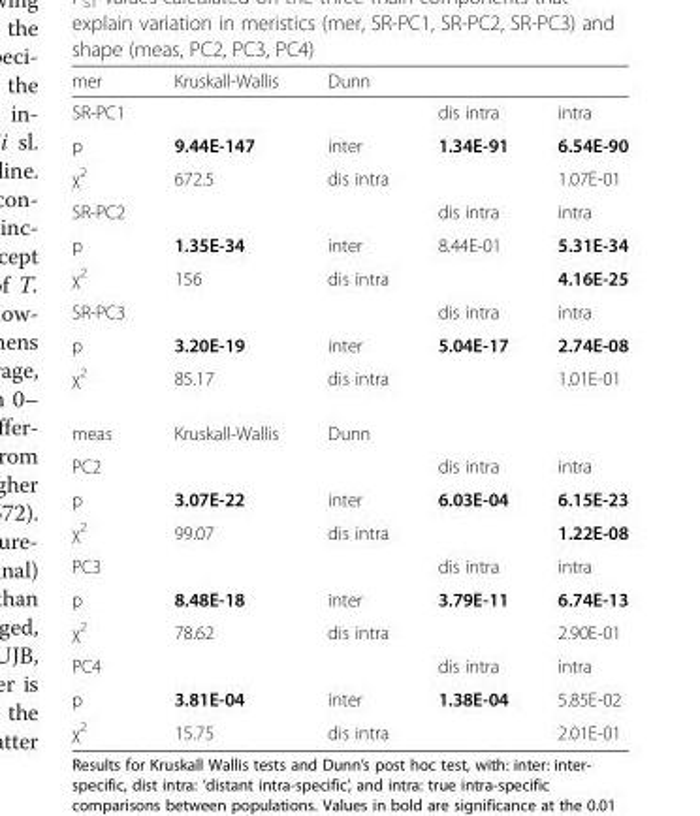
<table><thead><tr><td>mer</td><td>Kruskall-Wallis</td><td>Dunn</td><td></td><td></td></tr></thead><tbody><tr><td>SR-PC1</td><td></td><td></td><td>dis intra</td><td>intra</td></tr><tr><td>p</td><td>9.44E-147</td><td>inter</td><td>1.34E-91</td><td>6.54E-90</td></tr><tr><td>χ<sup>2</sup></td><td>672.5</td><td>dis intra</td><td></td><td>1.07E-01</td></tr><tr><td>SR-PC2</td><td></td><td></td><td>dis intra</td><td>intra</td></tr><tr><td>p</td><td>1.35E-34</td><td>inter</td><td>8.44E-01</td><td>5.31E-34</td></tr><tr><td>χ<sup>2</sup></td><td>156</td><td>dis intra</td><td></td><td>4.16E-25</td></tr><tr><td>SR-PC3</td><td></td><td></td><td>dis intra</td><td>intra</td></tr><tr><td>p</td><td>3.20E-19</td><td>inter</td><td>5.04E-17</td><td>2.74E-08</td></tr><tr><td>χ<sup>2</sup></td><td>85.17</td><td>dis intra</td><td></td><td>1.01E-01</td></tr><tr><td>meas</td><td>Kruskall-Wallis</td><td>Dunn</td><td></td><td></td></tr><tr><td>PC2</td><td></td><td></td><td>dis intra</td><td>intra</td></tr><tr><td>p</td><td>3.07E-22</td><td>inter</td><td>6.03E-04</td><td>6.15E-23</td></tr><tr><td>χ<sup>2</sup></td><td>99.07</td><td>dis intra</td><td></td><td>1.22E-08</td></tr><tr><td>PC3</td><td></td><td></td><td>dis intra</td><td>intra</td></tr><tr><td>p</td><td>8.48E-18</td><td>inter</td><td>3.79E-11</td><td>6.74E-13</td></tr><tr><td>χ<sup>2</sup></td><td>78.62</td><td>dis intra</td><td></td><td>2.90E-01</td></tr><tr><td>PC4</td><td></td><td></td><td>dis intra</td><td>intra</td></tr><tr><td>p</td><td>3.81E-04</td><td>inter</td><td>1.38E-04</td><td>5.85E-02</td></tr><tr><td>χ<sup>2</sup></td><td>15.75</td><td>dis intra</td><td></td><td>2.01E-01</td></tr></tbody></table>